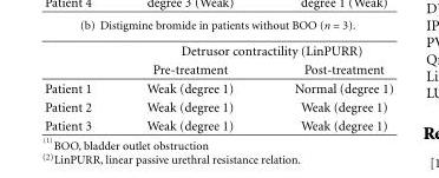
<table><thead><tr><td rowspan="2"></td><td colspan="2">Detrusor contractility (LinPURR)</td></tr><tr><td>Pre-treatment</td><td>Post-treatment</td></tr></thead><tbody><tr><td>Patient 1</td><td>Weak (degree 1)</td><td>Normal (degree 1)</td></tr><tr><td>Patient 2</td><td>Weak (degree 1)</td><td>Weak (degree 1)</td></tr><tr><td>Patient 3</td><td>Weak (degree 1)</td><td>Weak (degree 1)</td></tr></tbody></table>